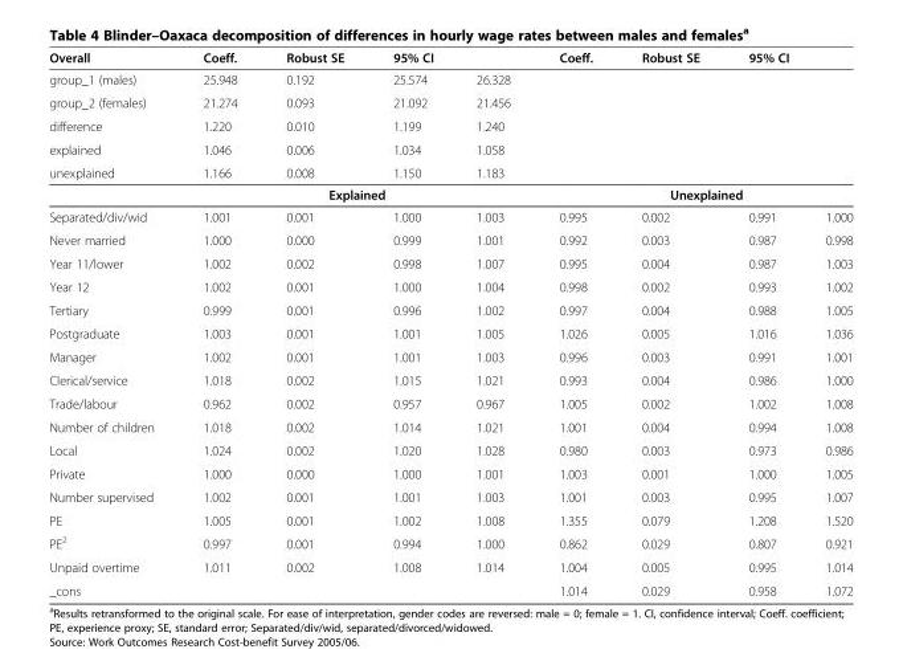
<table><thead><tr><td rowspan="2">Overall group_1 (males)</td><td rowspan="2">Coeff. 25.948</td><td rowspan="2">Robust SE 0.192</td><td colspan="2">95% CI</td><td rowspan="2">Coeff.</td><td rowspan="2">Robust SE</td><td colspan="2">95% CI</td></tr><tr><td>25.574</td><td>26.328</td><td></td><td></td></tr></thead><tbody><tr><td>group_2 (females)</td><td>21.274</td><td>0.093</td><td>21.092</td><td>21.456</td><td></td><td></td><td></td><td></td></tr><tr><td>difference</td><td>1.220</td><td>0.010</td><td>1.199</td><td>1.240</td><td></td><td></td><td></td><td></td></tr><tr><td>explained</td><td>1.046</td><td>0.006</td><td>1.034</td><td>1.058</td><td></td><td></td><td></td><td></td></tr><tr><td rowspan="2">unexplained</td><td>1.166</td><td>0.008</td><td>1.150</td><td>1.183</td><td></td><td></td><td></td><td></td></tr><tr><td colspan="4">Explained</td><td colspan="4">Unexplained</td></tr><tr><td>Separated/div/wid</td><td>1.001</td><td>0.001</td><td>1.000</td><td>1.003</td><td>0.995</td><td>0.002</td><td>0.991</td><td>1.000</td></tr><tr><td>Never married</td><td>1.000</td><td>0.000</td><td>0.999</td><td>1.001</td><td>0.992</td><td>0.003</td><td>0.987</td><td>0.998</td></tr><tr><td>Year 11/lower</td><td>1.002</td><td>0.002</td><td>0.998</td><td>1.007</td><td>0.995</td><td>0.004</td><td>0.987</td><td>1.003</td></tr><tr><td>Year 12</td><td>1.002</td><td>0.001</td><td>1.000</td><td>1.004</td><td>0.998</td><td>0.002</td><td>0.993</td><td>1.002</td></tr><tr><td>Tertiary</td><td>0.999</td><td>0.001</td><td>0.996</td><td>1.002</td><td>0.997</td><td>0.004</td><td>0.988</td><td>1.005</td></tr><tr><td>Postgraduate</td><td>1.003</td><td>0.001</td><td>1.001</td><td>1.005</td><td>1.026</td><td>0.005</td><td>1.016</td><td>1.036</td></tr><tr><td>Manager</td><td>1.002</td><td>0.001</td><td>1.001</td><td>1.003</td><td>0.996</td><td>0.003</td><td>0.991</td><td>1.001</td></tr><tr><td>Clerical/service</td><td>1.018</td><td>0.002</td><td>1.015</td><td>1.021</td><td>0.993</td><td>0.004</td><td>0.986</td><td>1.000</td></tr><tr><td>Trade/labour</td><td>0.962</td><td>0.002</td><td>0.957</td><td>0.967</td><td>1.005</td><td>0.002</td><td>1.002</td><td>1.008</td></tr><tr><td>Number of children</td><td>1.018</td><td>0.002</td><td>1.014</td><td>1.021</td><td>1.001</td><td>0.004</td><td>0.994</td><td>1.008</td></tr><tr><td>Local</td><td>1.024</td><td>0.002</td><td>1.020</td><td>1.028</td><td>0.980</td><td>0.003</td><td>0.973</td><td>0.986</td></tr><tr><td>Private</td><td>1.000</td><td>0.000</td><td>1.000</td><td>1.001</td><td>1.003</td><td>0.001</td><td>1.000</td><td>1.005</td></tr><tr><td>Number supervised</td><td>1.002</td><td>0.001</td><td>1.001</td><td>1.003</td><td>1.001</td><td>0.003</td><td>0.995</td><td>1.007</td></tr><tr><td>PE</td><td>1.005</td><td>0.001</td><td>1.002</td><td>1.008</td><td>1.355</td><td>0.079</td><td>1.208</td><td>1.520</td></tr><tr><td>PE<sup>2</sup></td><td>0.997</td><td>0.001</td><td>0.994</td><td>1.000</td><td>0.862</td><td>0.029</td><td>0.807</td><td>0.921</td></tr><tr><td>Unpaid overtime</td><td>1.011</td><td>0.002</td><td>1.008</td><td>1.014</td><td>1.004</td><td>0.005</td><td>0.995</td><td>1.014</td></tr><tr><td>_cons</td><td></td><td></td><td></td><td></td><td>1.014</td><td>0.029</td><td>0.958</td><td>1.072</td></tr></tbody></table>